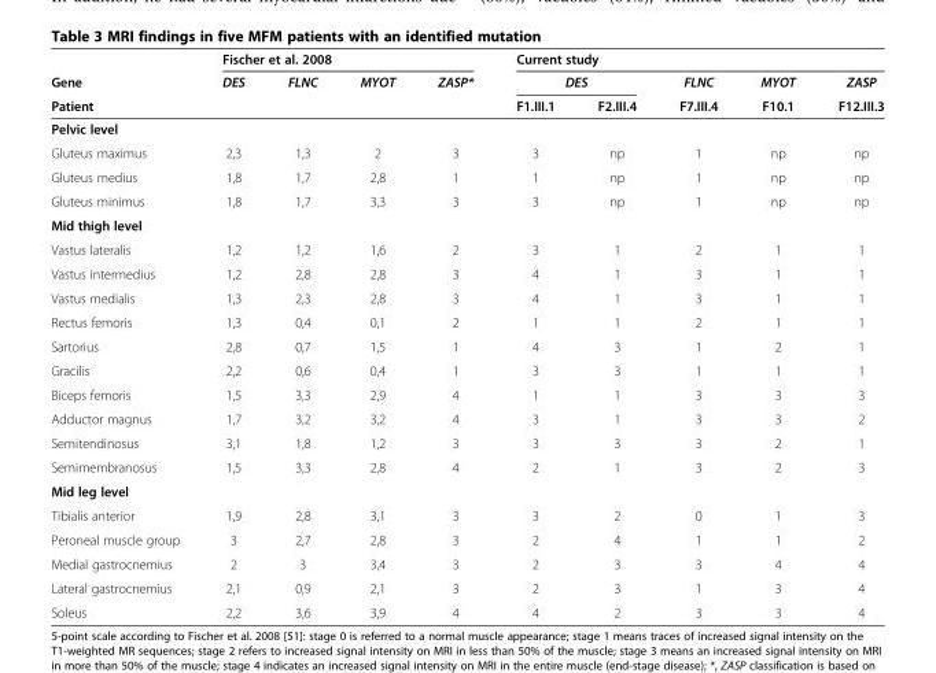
<table><thead><tr><td rowspan="3">Gene Patient</td><td colspan="4">Fischer et al. 2008</td><td colspan="5">Current study</td></tr><tr><td rowspan="2">DES</td><td rowspan="2">FLNC</td><td rowspan="2">MYOT</td><td rowspan="2">ZASP*</td><td colspan="2">DES</td><td rowspan="2">FLNC F7.III.4</td><td rowspan="2">MYOT F10.1</td><td rowspan="2">ZASP F12.III.3</td></tr><tr><td>F1.III.1</td><td>F2.III.4</td></tr></thead><tbody><tr><td colspan="10">Pelvic level</td></tr><tr><td>Gluteus maximus</td><td>2,3</td><td>1,3</td><td>2</td><td>3</td><td>3</td><td>np</td><td>1</td><td>np</td><td>np</td></tr><tr><td>Gluteus medius</td><td>1,8</td><td>1,7</td><td>2,8</td><td>1</td><td>1</td><td>np</td><td>1</td><td>np</td><td>np</td></tr><tr><td>Gluteus minimus</td><td>1,8</td><td>1,7</td><td>3,3</td><td>3</td><td>3</td><td>np</td><td>1</td><td>np</td><td>np</td></tr><tr><td colspan="10">Mid thigh level</td></tr><tr><td>Vastus lateralis</td><td>1,2</td><td>1,2</td><td>1,6</td><td>2</td><td>3</td><td>1</td><td>2</td><td>1</td><td>1</td></tr><tr><td>Vastus intermedius</td><td>1,2</td><td>2,8</td><td>2,8</td><td>3</td><td>4</td><td>1</td><td>3</td><td>1</td><td>1</td></tr><tr><td>Vastus medialis</td><td>1,3</td><td>2,3</td><td>2,8</td><td>3</td><td>4</td><td>1</td><td>3</td><td>1</td><td>1</td></tr><tr><td>Rectus femoris</td><td>1,3</td><td>0,4</td><td>0,1</td><td>2</td><td>1</td><td>1</td><td>2</td><td>1</td><td>1</td></tr><tr><td>Sartorius</td><td>2,8</td><td>0,7</td><td>1,5</td><td>1</td><td>4</td><td>3</td><td>1</td><td>2</td><td>1</td></tr><tr><td>Gracilis</td><td>2,2</td><td>0,6</td><td>0,4</td><td>1</td><td>3</td><td>3</td><td>1</td><td>1</td><td>1</td></tr><tr><td>Biceps femoris</td><td>1,5</td><td>3,3</td><td>2,9</td><td>4</td><td>1</td><td>1</td><td>3</td><td>3</td><td>3</td></tr><tr><td>Adductor magnus</td><td>1,7</td><td>3,2</td><td>3,2</td><td>4</td><td>3</td><td>1</td><td>3</td><td>3</td><td>2</td></tr><tr><td>Semitendinosus</td><td>3,1</td><td>1,8</td><td>1,2</td><td>3</td><td>3</td><td>3</td><td>3</td><td>2</td><td>1</td></tr><tr><td>Semimembranosus</td><td>1,5</td><td>3,3</td><td>2,8</td><td>4</td><td>2</td><td>1</td><td>3</td><td>2</td><td>3</td></tr><tr><td colspan="10">Mid leg level</td></tr><tr><td>Tibialis anterior</td><td>1,9</td><td>2,8</td><td>3,1</td><td>3</td><td>3</td><td>2</td><td>0</td><td>1</td><td>3</td></tr><tr><td>Peroneal muscle group</td><td>3</td><td>2,7</td><td>2,8</td><td>3</td><td>2</td><td>4</td><td>1</td><td>1</td><td>2</td></tr><tr><td>Medial gastrocnemius</td><td>2</td><td>3</td><td>3,4</td><td>3</td><td>2</td><td>3</td><td>3</td><td>4</td><td>4</td></tr><tr><td>Lateral gastrocnemius</td><td>2,1</td><td>0,9</td><td>2,1</td><td>3</td><td>2</td><td>3</td><td>1</td><td>3</td><td>4</td></tr><tr><td>Soleus</td><td>2,2</td><td>3,6</td><td>3,9</td><td>4</td><td>4</td><td>2</td><td>3</td><td>3</td><td>4</td></tr></tbody></table>